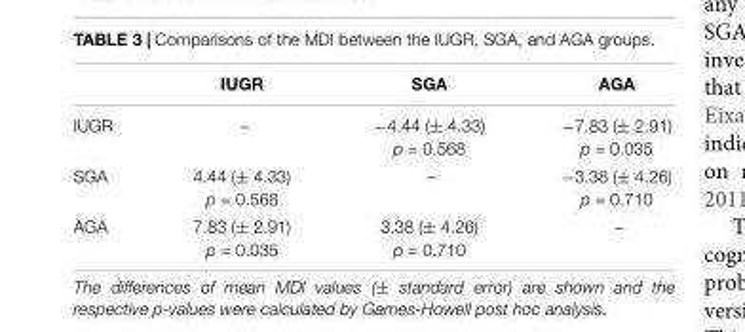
<table><thead><tr><td></td><td>IUGR</td><td>SGA</td><td>AGA</td></tr></thead><tbody><tr><td>IUGR</td><td>–</td><td>−4.44 (± 4.33) p = 0.568</td><td>−7.83 (± 2.91) p = 0.035</td></tr><tr><td>SGA</td><td>4.44 (± 4.33) p = 0.568</td><td>–</td><td>−3.38 (± 4.26) p = 0.710</td></tr><tr><td>AGA</td><td>7.83 (± 2.91) p = 0.035</td><td>3.38 (± 4.26) p = 0.710</td><td>–</td></tr></tbody></table>